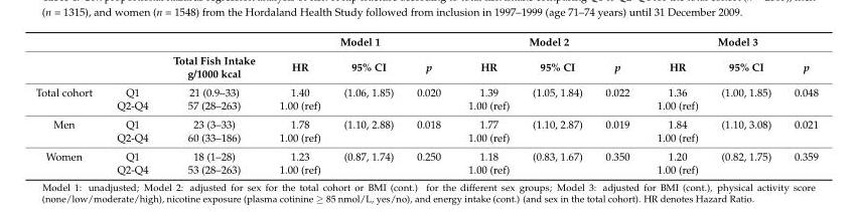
<table><thead><tr><td rowspan="2"></td><td rowspan="2"></td><td rowspan="2">Total Fish Intake g/1000 kcal</td><td colspan="3">Model 1</td><td colspan="3">Model 2</td><td colspan="3">Model 3</td></tr><tr><td>HR</td><td>95% CI</td><td>p</td><td>HR</td><td>95% CI</td><td>p</td><td>HR</td><td>95% CI</td><td>p</td></tr></thead><tbody><tr><td rowspan="2">Total cohort</td><td>Q1</td><td>21 (0.9–33)</td><td>1.40</td><td>(1.06, 1.85)</td><td>0.020</td><td>1.39</td><td>(1.05, 1.84)</td><td>0.022</td><td>1.36</td><td>(1.00, 1.85)</td><td>0.048</td></tr><tr><td>Q2-Q4</td><td>57 (28–263)</td><td>1.00 (ref)</td><td></td><td></td><td>1.00 (ref)</td><td></td><td></td><td>1.00 (ref)</td><td></td><td></td></tr><tr><td rowspan="2">Men</td><td>Q1</td><td>23 (3–33)</td><td>1.78</td><td>(1.10, 2.88)</td><td>0.018</td><td>1.77</td><td>(1.10, 2.87)</td><td>0.019</td><td>1.84</td><td>(1.10, 3.08)</td><td>0.021</td></tr><tr><td>Q2-Q4</td><td>60 (33–186)</td><td>1.00 (ref)</td><td></td><td></td><td>1.00 (ref)</td><td></td><td></td><td>1.00 (ref)</td><td></td><td></td></tr><tr><td rowspan="2">Women</td><td>Q1</td><td>18 (1–28)</td><td>1.23</td><td>(0.87, 1.74)</td><td>0.250</td><td>1.18</td><td>(0.83, 1.67)</td><td>0.350</td><td>1.20</td><td>(0.82, 1.75)</td><td>0.359</td></tr><tr><td>Q2-Q4</td><td>53 (28–263)</td><td>1.00 (ref)</td><td></td><td></td><td>1.00 (ref)</td><td></td><td></td><td>1.00 (ref)</td><td></td><td></td></tr></tbody></table>